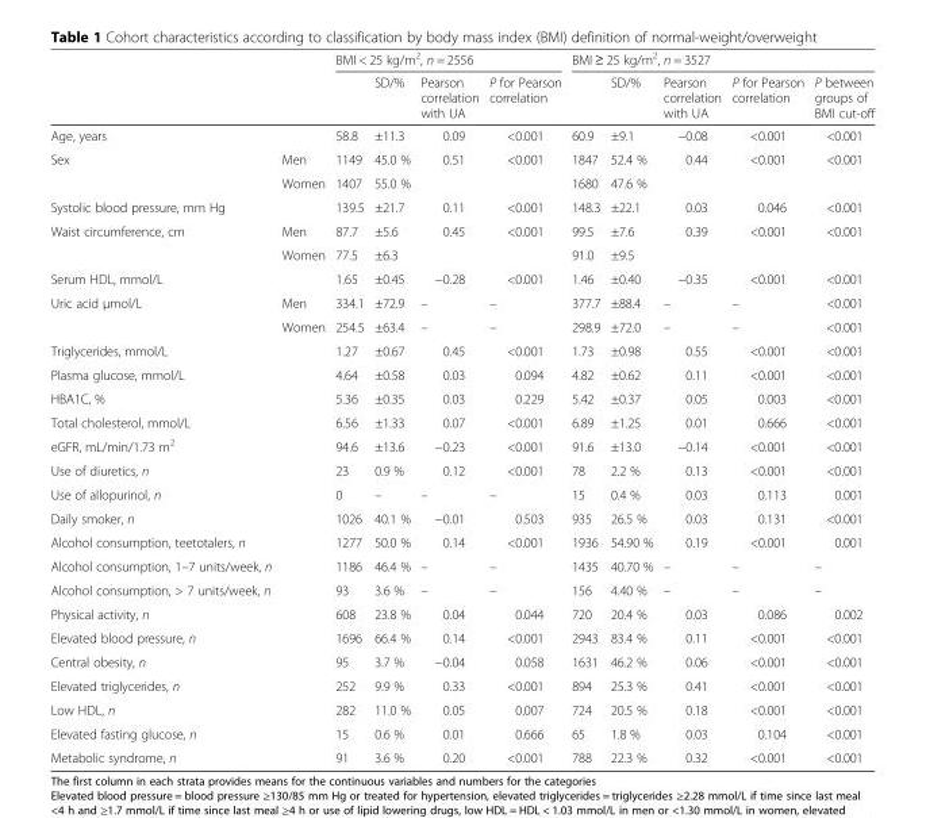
<table><thead><tr><td rowspan="2"></td><td rowspan="2"></td><td colspan="4">BMI &lt; 25 kg/m<sup>2</sup>, n = 2556</td><td colspan="5">BMI ≥ 25 kg/m<sup>2</sup>, n = 3527</td></tr><tr><td></td><td>SD/%</td><td>Pearson correlation with UA</td><td>P for Pearson correlation</td><td></td><td>SD/%</td><td>Pearson correlation with UA</td><td>P for Pearson correlation</td><td>P between groups of BMI cut-off</td></tr></thead><tbody><tr><td>Age, years</td><td></td><td>58.8</td><td>±11.3</td><td>0.09</td><td>&lt;0.001</td><td>60.9</td><td>±9.1</td><td>−0.08</td><td>&lt;0.001</td><td>&lt;0.001</td></tr><tr><td rowspan="2">Sex</td><td>Men</td><td>1149</td><td>45.0 %</td><td rowspan="2">0.51</td><td rowspan="2">&lt;0.001</td><td>1847</td><td>52.4 %</td><td rowspan="2">0.44</td><td rowspan="2">&lt;0.001</td><td rowspan="2">&lt;0.001</td></tr><tr><td>Women</td><td>1407</td><td>55.0 %</td><td>1680</td><td>47.6 %</td></tr><tr><td>Systolic blood pressure, mm Hg</td><td></td><td>139.5</td><td>±21.7</td><td>0.11</td><td>&lt;0.001</td><td>148.3</td><td>±22.1</td><td>0.03</td><td>0.046</td><td>&lt;0.001</td></tr><tr><td rowspan="2">Waist circumference, cm</td><td>Men</td><td>87.7</td><td>±5.6</td><td rowspan="2">0.45</td><td rowspan="2">&lt;0.001</td><td>99.5</td><td>±7.6</td><td rowspan="2">0.39</td><td rowspan="2">&lt;0.001</td><td rowspan="2">&lt;0.001</td></tr><tr><td>Women</td><td>77.5</td><td>±6.3</td><td>91.0</td><td>±9.5</td></tr><tr><td>Serum HDL, mmol/L</td><td></td><td>1.65</td><td>±0.45</td><td>−0.28</td><td>&lt;0.001</td><td>1.46</td><td>±0.40</td><td>−0.35</td><td>&lt;0.001</td><td>&lt;0.001</td></tr><tr><td rowspan="2">Uric acid μmol/L</td><td>Men</td><td>334.1</td><td>±72.9</td><td>–</td><td>–</td><td>377.7</td><td>±88.4</td><td>–</td><td>–</td><td>&lt;0.001</td></tr><tr><td>Women</td><td>254.5</td><td>±63.4</td><td>–</td><td>–</td><td>298.9</td><td>±72.0</td><td>–</td><td>–</td><td>&lt;0.001</td></tr><tr><td>Triglycerides, mmol/L</td><td></td><td>1.27</td><td>±0.67</td><td>0.45</td><td>&lt;0.001</td><td>1.73</td><td>±0.98</td><td>0.55</td><td>&lt;0.001</td><td>&lt;0.001</td></tr><tr><td>Plasma glucose, mmol/L</td><td></td><td>4.64</td><td>±0.58</td><td>0.03</td><td>0.094</td><td>4.82</td><td>±0.62</td><td>0.11</td><td>&lt;0.001</td><td>&lt;0.001</td></tr><tr><td>HBA1C, %</td><td></td><td>5.36</td><td>±0.35</td><td>0.03</td><td>0.229</td><td>5.42</td><td>±0.37</td><td>0.05</td><td>0.003</td><td>&lt;0.001</td></tr><tr><td>Total cholesterol, mmol/L</td><td></td><td>6.56</td><td>±1.33</td><td>0.07</td><td>&lt;0.001</td><td>6.89</td><td>±1.25</td><td>0.01</td><td>0.666</td><td>&lt;0.001</td></tr><tr><td>eGFR, mL/min/1.73 m<sup>2</sup></td><td></td><td>94.6</td><td>±13.6</td><td>−0.23</td><td>&lt;0.001</td><td>91.6</td><td>±13.0</td><td>−0.14</td><td>&lt;0.001</td><td>&lt;0.001</td></tr><tr><td>Use of diuretics, n</td><td></td><td>23</td><td>0.9 %</td><td>0.12</td><td>&lt;0.001</td><td>78</td><td>2.2 %</td><td>0.13</td><td>&lt;0.001</td><td>&lt;0.001</td></tr><tr><td>Use of allopurinol, n</td><td></td><td>0</td><td>–</td><td>–</td><td>–</td><td>15</td><td>0.4 %</td><td>0.03</td><td>0.113</td><td>0.001</td></tr><tr><td>Daily smoker, n</td><td></td><td>1026</td><td>40.1 %</td><td>−0.01</td><td>0.503</td><td>935</td><td>26.5 %</td><td>0.03</td><td>0.131</td><td>&lt;0.001</td></tr><tr><td>Alcohol consumption, teetotalers, n</td><td></td><td>1277</td><td>50.0 %</td><td>0.14</td><td>&lt;0.001</td><td>1936</td><td>54.90 %</td><td>0.19</td><td>&lt;0.001</td><td>0.001</td></tr><tr><td>Alcohol consumption, 1–7 units/week, n</td><td></td><td>1186</td><td>46.4 %</td><td>–</td><td>–</td><td>1435</td><td>40.70 %</td><td>–</td><td>–</td><td>–</td></tr><tr><td>Alcohol consumption, &gt; 7 units/week, n</td><td></td><td>93</td><td>3.6 %</td><td>–</td><td>–</td><td>156</td><td>4.40 %</td><td>–</td><td>–</td><td>–</td></tr><tr><td>Physical activity, n</td><td></td><td>608</td><td>23.8 %</td><td>0.04</td><td>0.044</td><td>720</td><td>20.4 %</td><td>0.03</td><td>0.086</td><td>0.002</td></tr><tr><td>Elevated blood pressure, n</td><td></td><td>1696</td><td>66.4 %</td><td>0.14</td><td>&lt;0.001</td><td>2943</td><td>83.4 %</td><td>0.11</td><td>&lt;0.001</td><td>&lt;0.001</td></tr><tr><td>Central obesity, n</td><td></td><td>95</td><td>3.7 %</td><td>−0.04</td><td>0.058</td><td>1631</td><td>46.2 %</td><td>0.06</td><td>&lt;0.001</td><td>&lt;0.001</td></tr><tr><td>Elevated triglycerides, n</td><td></td><td>252</td><td>9.9 %</td><td>0.33</td><td>&lt;0.001</td><td>894</td><td>25.3 %</td><td>0.41</td><td>&lt;0.001</td><td>&lt;0.001</td></tr><tr><td>Low HDL, n</td><td></td><td>282</td><td>11.0 %</td><td>0.05</td><td>0.007</td><td>724</td><td>20.5 %</td><td>0.18</td><td>&lt;0.001</td><td>&lt;0.001</td></tr><tr><td>Elevated fasting glucose, n</td><td></td><td>15</td><td>0.6 %</td><td>0.01</td><td>0.666</td><td>65</td><td>1.8 %</td><td>0.03</td><td>0.104</td><td>&lt;0.001</td></tr><tr><td>Metabolic syndrome, n</td><td></td><td>91</td><td>3.6 %</td><td>0.20</td><td>&lt;0.001</td><td>788</td><td>22.3 %</td><td>0.32</td><td>&lt;0.001</td><td>&lt;0.001</td></tr></tbody></table>